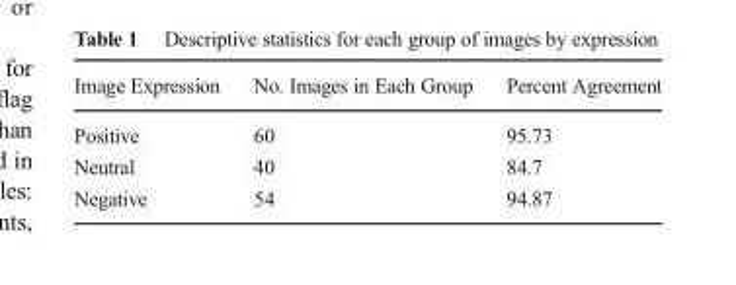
<table><thead><tr><td>Image Expression</td><td>No. Images in Each Group</td><td>Percent Agreement</td></tr></thead><tbody><tr><td>Positive</td><td>60</td><td>95.73</td></tr><tr><td>Neutral</td><td>40</td><td>84.7</td></tr><tr><td>Negative</td><td>54</td><td>94.87</td></tr></tbody></table>